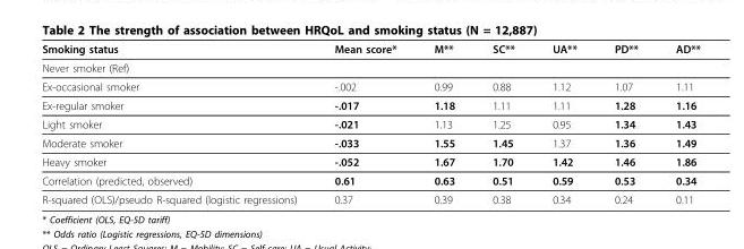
<table><thead><tr><td>Smoking status</td><td>Mean score*</td><td>M**</td><td>SC**</td><td>UA**</td><td>PD**</td><td>AD**</td></tr></thead><tbody><tr><td colspan="7">Never smoker (Ref)</td></tr><tr><td>Ex-occasional smoker</td><td>-.002</td><td>0.99</td><td>0.88</td><td>1.12</td><td>1.07</td><td>1.11</td></tr><tr><td>Ex-regular smoker</td><td>-.017</td><td>1.18</td><td>1.11</td><td>1.11</td><td>1.28</td><td>1.16</td></tr><tr><td>Light smoker</td><td>-.021</td><td>1.13</td><td>1.25</td><td>0.95</td><td>1.34</td><td>1.43</td></tr><tr><td>Moderate smoker</td><td>-.033</td><td>1.55</td><td>1.45</td><td>1.37</td><td>1.36</td><td>1.49</td></tr><tr><td>Heavy smoker</td><td>-.052</td><td>1.67</td><td>1.70</td><td>1.42</td><td>1.46</td><td>1.86</td></tr><tr><td>Correlation (predicted, observed)</td><td>0.61</td><td>0.63</td><td>0.51</td><td>0.59</td><td>0.53</td><td>0.34</td></tr><tr><td>R-squared (OLS)/pseudo R-squared (logistic regressions)</td><td>0.37</td><td>0.39</td><td>0.38</td><td>0.34</td><td>0.24</td><td>0.11</td></tr></tbody></table>